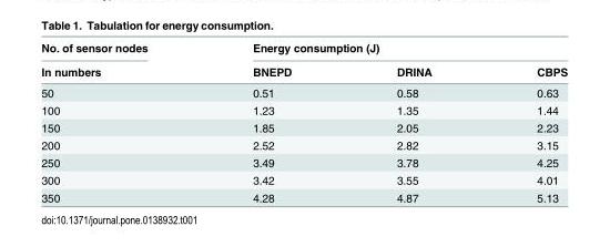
<table><thead><tr><td rowspan="2">No. of sensor nodes In numbers</td><td colspan="3">Energy consumption (J)</td></tr><tr><td>BNEPD</td><td>DRINA</td><td>CBPS</td></tr></thead><tbody><tr><td>50</td><td>0.51</td><td>0.58</td><td>0.63</td></tr><tr><td>100</td><td>1.23</td><td>1.35</td><td>1.44</td></tr><tr><td>150</td><td>1.85</td><td>2.05</td><td>2.23</td></tr><tr><td>200</td><td>2.52</td><td>2.82</td><td>3.15</td></tr><tr><td>250</td><td>3.49</td><td>3.78</td><td>4.25</td></tr><tr><td>300</td><td>3.42</td><td>3.55</td><td>4.01</td></tr><tr><td>350</td><td>4.28</td><td>4.87</td><td>5.13</td></tr></tbody></table>